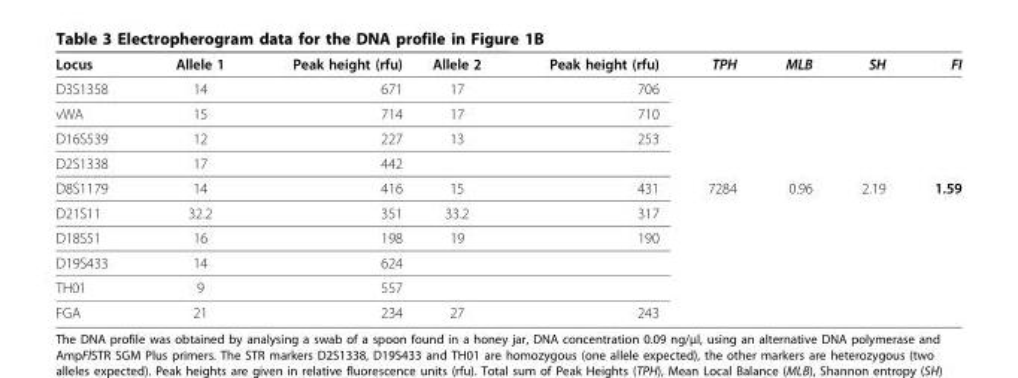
<table><thead><tr><td>Locus</td><td>Allele 1</td><td>Peak height (rfu)</td><td>Allele 2</td><td>Peak height (rfu)</td><td>TPH</td><td>MLB</td><td>SH</td><td>FI</td></tr></thead><tbody><tr><td>D3S1358</td><td>14</td><td>671</td><td>17</td><td>706</td><td></td><td></td><td></td><td></td></tr><tr><td>vWA</td><td>15</td><td>714</td><td>17</td><td>710</td><td></td><td></td><td></td><td></td></tr><tr><td>D16S539</td><td>12</td><td>227</td><td>13</td><td>253</td><td></td><td></td><td></td><td></td></tr><tr><td>D2S1338</td><td>17</td><td>442</td><td></td><td></td><td></td><td></td><td></td><td></td></tr><tr><td>D8S1179</td><td>14</td><td>416</td><td>15</td><td>431</td><td>7284</td><td>0.96</td><td>2.19</td><td>1.59</td></tr><tr><td>D21S11</td><td>32.2</td><td>351</td><td>33.2</td><td>317</td><td></td><td></td><td></td><td></td></tr><tr><td>D18S51</td><td>16</td><td>198</td><td>19</td><td>190</td><td></td><td></td><td></td><td></td></tr><tr><td>D19S433</td><td>14</td><td>624</td><td></td><td></td><td></td><td></td><td></td><td></td></tr><tr><td>TH01</td><td>9</td><td>557</td><td></td><td></td><td></td><td></td><td></td><td></td></tr><tr><td>FGA</td><td>21</td><td>234</td><td>27</td><td>243</td><td></td><td></td><td></td><td></td></tr></tbody></table>